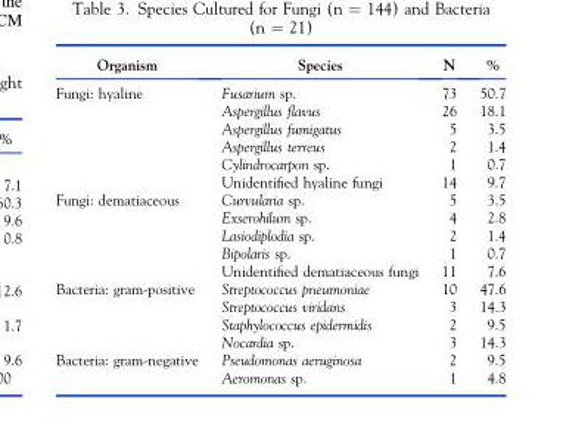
<table><thead><tr><td>Organism</td><td>Species</td><td>N</td><td>%</td></tr></thead><tbody><tr><td rowspan="6">Fungi: hyaline</td><td>Fusarium sp.</td><td>73</td><td>50.7</td></tr><tr><td>Aspergillus flavus</td><td>26</td><td>18.1</td></tr><tr><td>Aspergillus fumigatus</td><td>5</td><td>3.5</td></tr><tr><td>Aspergillus terreus</td><td>2</td><td>1.4</td></tr><tr><td>Cylindrocarpon sp.</td><td>1</td><td>0.7</td></tr><tr><td>Unidentified hyaline fungi</td><td>14</td><td>9.7</td></tr><tr><td rowspan="5">Fungi: dematiaceous</td><td>Curvularia sp.</td><td>5</td><td>3.5</td></tr><tr><td>Exserohilum sp.</td><td>4</td><td>2.8</td></tr><tr><td>Lasiodiplodia sp.</td><td>2</td><td>1.4</td></tr><tr><td>Bipolaris sp.</td><td>1</td><td>0.7</td></tr><tr><td>Unidentified dematiaceous fungi</td><td>11</td><td>7.6</td></tr><tr><td rowspan="4">Bacteria: gram-positive</td><td>Streptococcus pneumoniae</td><td>10</td><td>47.6</td></tr><tr><td>Streptococcus viridans</td><td>3</td><td>14.3</td></tr><tr><td>Staphylococcus epidermidis</td><td>2</td><td>9.5</td></tr><tr><td>Nocardia sp.</td><td>3</td><td>14.3</td></tr><tr><td rowspan="2">Bacteria: gram-negative</td><td>Pseudomonas aeruginosa</td><td>2</td><td>9.5</td></tr><tr><td>Aeromonas sp.</td><td>1</td><td>4.8</td></tr></tbody></table>